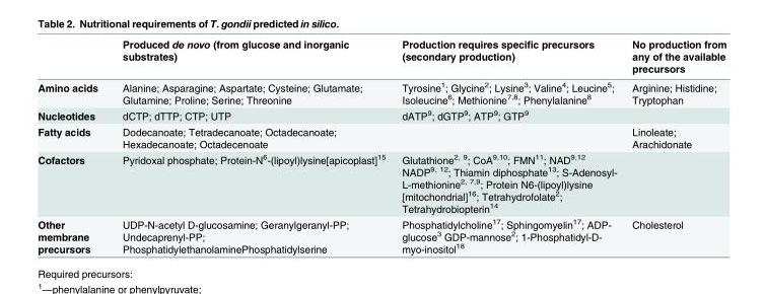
<table><thead><tr><td></td><td>Produced de novo (from glucose and inorganic substrates)</td><td>Production requires specific precursors (secondary production)</td><td>No production from any of the available precursors</td></tr></thead><tbody><tr><td>Amino acids</td><td>Alanine; Asparagine; Aspartate; Cysteine; Glutamate; Glutamine; Proline; Serine; Threonine</td><td>Tyrosine<sup>1</sup>; Glycine<sup>2</sup>; Lysine<sup>3</sup>; Valine<sup>4</sup>; Leucine<sup>5</sup>; Isoleucine<sup>6</sup>; Methionine<sup>7,8</sup>; Phenylalanine<sup>8</sup></td><td>Arginine; Histidine; Tryptophan</td></tr><tr><td>Nucleotides</td><td>dCTP; dTTP; CTP; UTP</td><td>dATP<sup>9</sup>; dGTP<sup>9</sup>; ATP<sup>9</sup>; GTP<sup>9</sup></td><td></td></tr><tr><td>Fatty acids</td><td>Dodecanoate; Tetradecanoate; Octadecanoate; Hexadecanoate; Octadecenoate</td><td></td><td>Linoleate; Arachidonate</td></tr><tr><td>Cofactors</td><td>Pyridoxal phosphate; Protein-N<sup>6</sup>-(lipoyl)lysine[apicoplast]<sup>15</sup></td><td>Glutathione<sup>2, 9</sup>; CoA<sup>9,10</sup>; FMN<sup>11</sup>; NAD<sup>9,12</sup> NADP<sup>9, 12</sup>; Thiamin diphosphate<sup>13</sup>; S-Adenosyl- L-methionine<sup>2, 7,9</sup>; Protein N6-(lipoyl)lysine [mitochondrial]<sup>16</sup>; Tetrahydrofolate<sup>2</sup>; Tetrahydrobiopterin<sup>14</sup></td><td></td></tr><tr><td>Other membrane precursors</td><td>UDP-N-acetyl D-glucosamine; Geranylgeranyl-PP; Undecaprenyl-PP; PhosphatidylethanolaminePhosphatidylserine</td><td>Phosphatidylcholine<sup>17</sup>; Sphingomyelin<sup>17</sup>; ADP- glucose<sup>3</sup> GDP-mannose<sup>2</sup>; 1-Phosphatidyl-D- myo-inositol<sup>18</sup></td><td>Cholesterol</td></tr></tbody></table>